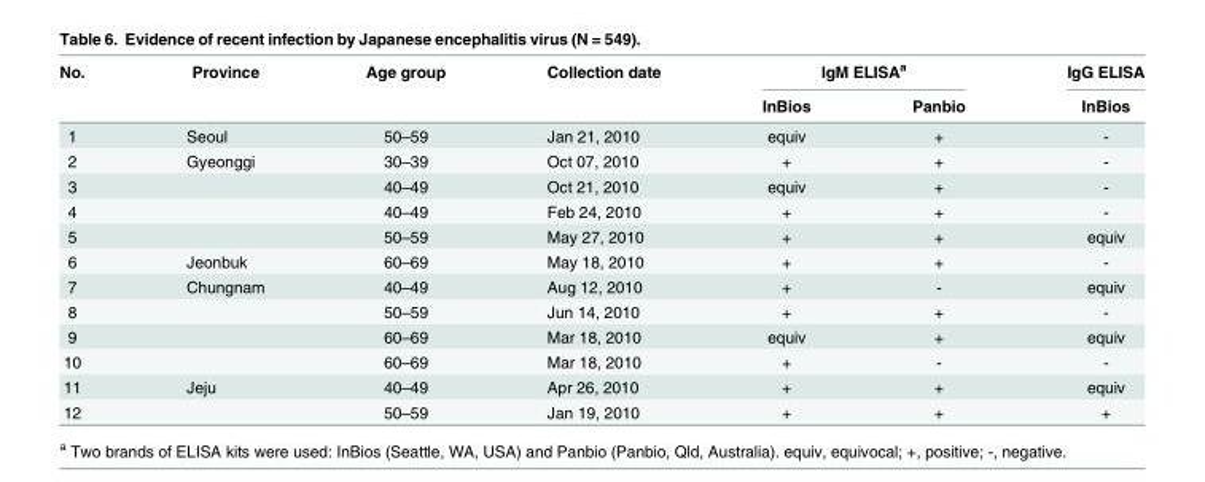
<table><thead><tr><td rowspan="2">No.</td><td rowspan="2">Province</td><td rowspan="2">Age group</td><td rowspan="2">Collection date</td><td colspan="2">IgM ELISA<sup>a</sup></td><td rowspan="2">IgG ELISA InBios</td></tr><tr><td>InBios</td><td>Panbio</td></tr></thead><tbody><tr><td>1</td><td>Seoul</td><td>50–59</td><td>Jan 21, 2010</td><td>equiv</td><td>+</td><td>-</td></tr><tr><td>2</td><td>Gyeonggi</td><td>30–39</td><td>Oct 07, 2010</td><td>+</td><td>+</td><td>-</td></tr><tr><td>3</td><td></td><td>40–49</td><td>Oct 21, 2010</td><td>equiv</td><td>+</td><td>-</td></tr><tr><td>4</td><td></td><td>40–49</td><td>Feb 24, 2010</td><td>+</td><td>+</td><td>-</td></tr><tr><td>5</td><td></td><td>50–59</td><td>May 27, 2010</td><td>+</td><td>+</td><td>equiv</td></tr><tr><td>6</td><td>Jeonbuk</td><td>60–69</td><td>May 18, 2010</td><td>+</td><td>+</td><td>-</td></tr><tr><td>7</td><td>Chungnam</td><td>40–49</td><td>Aug 12, 2010</td><td>+</td><td>-</td><td>equiv</td></tr><tr><td>8</td><td></td><td>50–59</td><td>Jun 14, 2010</td><td>+</td><td>+</td><td>-</td></tr><tr><td>9</td><td></td><td>60–69</td><td>Mar 18, 2010</td><td>equiv</td><td>+</td><td>equiv</td></tr><tr><td>10</td><td></td><td>60–69</td><td>Mar 18, 2010</td><td>+</td><td>-</td><td>-</td></tr><tr><td>11</td><td>Jeju</td><td>40–49</td><td>Apr 26, 2010</td><td>+</td><td>+</td><td>equiv</td></tr><tr><td>12</td><td></td><td>50–59</td><td>Jan 19, 2010</td><td>+</td><td>+</td><td>+</td></tr></tbody></table>